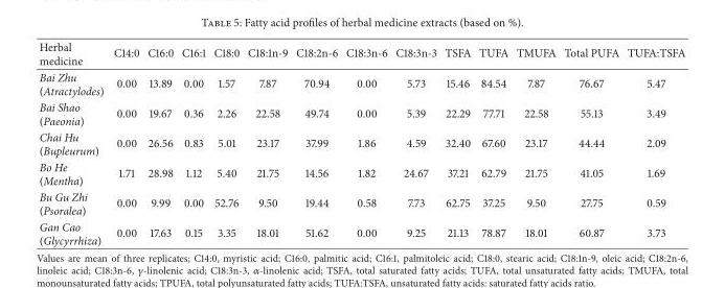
<table><thead><tr><td>Herbal medicine</td><td>C14:0</td><td>C16:0</td><td>C16:1</td><td>C18:0</td><td>C18:1n-9</td><td>C18:2n-6</td><td>C18:3n-6</td><td>C18:3n-3</td><td>TSFA</td><td>TUFA</td><td>TMUFA</td><td>Total PUFA</td><td>TUFA:TSFA</td></tr></thead><tbody><tr><td>Bai Zhu (Atractylodes)</td><td>0.00</td><td>13.89</td><td>0.00</td><td>1.57</td><td>7.87</td><td>70.94</td><td>0.00</td><td>5.73</td><td>15.46</td><td>84.54</td><td>7.87</td><td>76.67</td><td>5.47</td></tr><tr><td>Bai Shao (Paeonia)</td><td>0.00</td><td>19.67</td><td>0.36</td><td>2.26</td><td>22.58</td><td>49.74</td><td>0.00</td><td>5.39</td><td>22.29</td><td>77.71</td><td>22.58</td><td>55.13</td><td>3.49</td></tr><tr><td>Chai Hu (Bupleurum)</td><td>0.00</td><td>26.56</td><td>0.83</td><td>5.01</td><td>23.17</td><td>37.99</td><td>1.86</td><td>4.59</td><td>32.40</td><td>67.60</td><td>23.17</td><td>44.44</td><td>2.09</td></tr><tr><td>Bo He (Mentha)</td><td>1.71</td><td>28.98</td><td>1.12</td><td>5.40</td><td>21.75</td><td>14.56</td><td>1.82</td><td>24.67</td><td>37.21</td><td>62.79</td><td>21.75</td><td>41.05</td><td>1.69</td></tr><tr><td>Bu Gu Zhi (Psoralea)</td><td>0.00</td><td>9.99</td><td>0.00</td><td>52.76</td><td>9.50</td><td>19.44</td><td>0.58</td><td>7.73</td><td>62.75</td><td>37.25</td><td>9.50</td><td>27.75</td><td>0.59</td></tr><tr><td>Gan Cao (Glycyrrhiza)</td><td>0.00</td><td>17.63</td><td>0.15</td><td>3.35</td><td>18.01</td><td>51.62</td><td>0.00</td><td>9.25</td><td>21.13</td><td>78.87</td><td>18.01</td><td>60.87</td><td>3.73</td></tr></tbody></table>